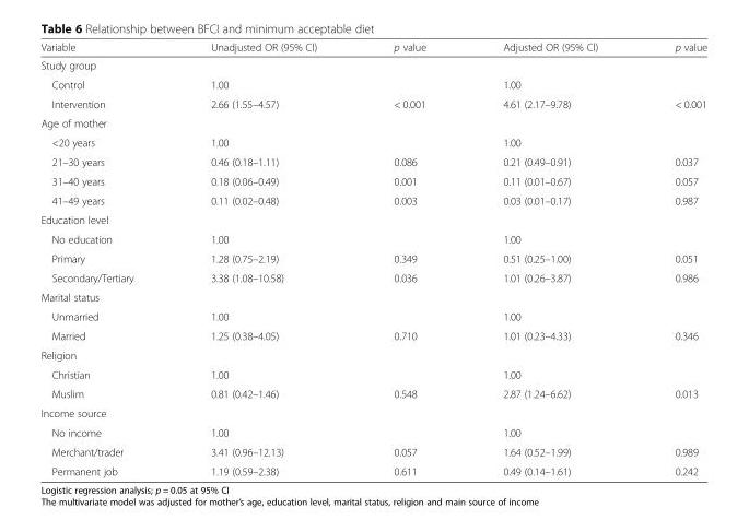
<table><thead><tr><td>Variable</td><td>Unadjusted OR (95% Cl)</td><td>p value</td><td>Adjusted OR (95% Cl)</td><td>p value</td></tr></thead><tbody><tr><td colspan="5">Study group</td></tr><tr><td>Control</td><td>1.00</td><td></td><td>1.00</td><td></td></tr><tr><td>Intervention</td><td>2.66 (1.55–4.57)</td><td>&lt; 0.001</td><td>4.61 (2.17–9.78)</td><td>&lt; 0.001</td></tr><tr><td colspan="5">Age of mother</td></tr><tr><td>&lt;20 years</td><td>1.00</td><td></td><td>1.00</td><td></td></tr><tr><td>21–30 years</td><td>0.46 (0.18–1.11)</td><td>0.086</td><td>0.21 (0.49–0.91)</td><td>0.037</td></tr><tr><td>31–40 years</td><td>0.18 (0.06–0.49)</td><td>0.001</td><td>0.11 (0.01–0.67)</td><td>0.057</td></tr><tr><td>41–49 years</td><td>0.11 (0.02–0.48)</td><td>0.003</td><td>0.03 (0.01–0.17)</td><td>0.987</td></tr><tr><td colspan="5">Education level</td></tr><tr><td>No education</td><td>1.00</td><td></td><td>1.00</td><td></td></tr><tr><td>Primary</td><td>1.28 (0.75–2.19)</td><td>0.349</td><td>0.51 (0.25–1.00)</td><td>0.051</td></tr><tr><td>Secondary/Tertiary</td><td>3.38 (1.08–10.58)</td><td>0.036</td><td>1.01 (0.26–3.87)</td><td>0.986</td></tr><tr><td colspan="5">Marital status</td></tr><tr><td>Unmarried</td><td>1.00</td><td></td><td>1.00</td><td></td></tr><tr><td>Married</td><td>1.25 (0.38–4.05)</td><td>0.710</td><td>1.01 (0.23–4.33)</td><td>0.346</td></tr><tr><td colspan="5">Religion</td></tr><tr><td>Christian</td><td>1.00</td><td></td><td>1.00</td><td></td></tr><tr><td>Muslim</td><td>0.81 (0.42–1.46)</td><td>0.548</td><td>2.87 (1.24–6.62)</td><td>0.013</td></tr><tr><td colspan="5">Income source</td></tr><tr><td>No income</td><td>1.00</td><td></td><td>1.00</td><td></td></tr><tr><td>Merchant/trader</td><td>3.41 (0.96–12.13)</td><td>0.057</td><td>1.64 (0.52–1.99)</td><td>0.989</td></tr><tr><td>Permanent job</td><td>1.19 (0.59–2.38)</td><td>0.611</td><td>0.49 (0.14–1.61)</td><td>0.242</td></tr></tbody></table>